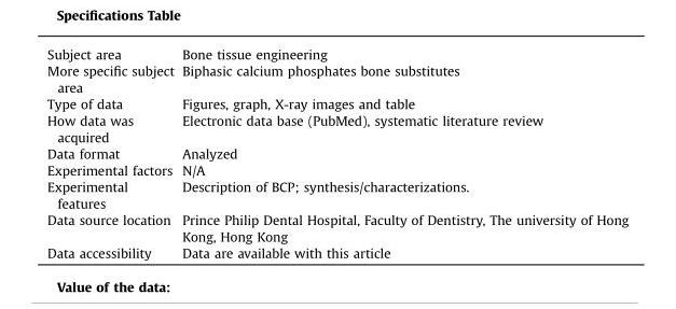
<table><tbody><tr><td>Subject area</td><td>Bone tissue engineering</td></tr><tr><td>More specific subject area</td><td>Biphasic calcium phosphates bone substitutes</td></tr><tr><td>Type of data</td><td>Figures, graph, X-ray images and table</td></tr><tr><td>How data was acquired</td><td>Electronic data base (PubMed), systematic literature review</td></tr><tr><td>Data format</td><td>Analyzed</td></tr><tr><td>Experimental factors</td><td>N/A</td></tr><tr><td>Experimental features</td><td>Description of BCP; synthesis/characterizations.</td></tr><tr><td>Data source location</td><td>Prince Philip Dental Hospital, Faculty of Dentistry, The university of Hong Kong, Hong Kong</td></tr><tr><td>Data accessibility</td><td>Data are available with this article</td></tr></tbody></table>